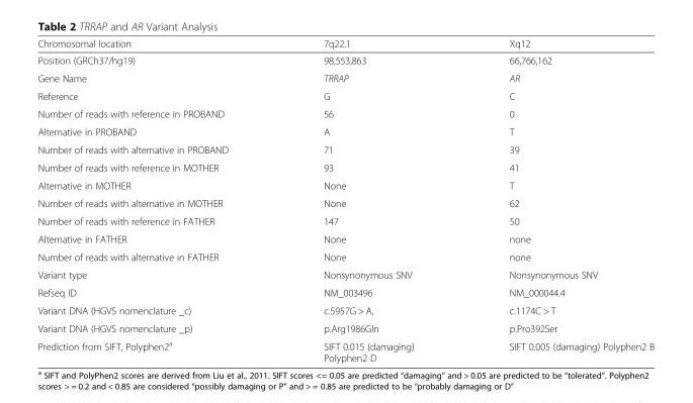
<table><thead><tr><td>Chromosomal location</td><td>7q22.1</td><td>Xq12</td></tr></thead><tbody><tr><td>Position (GRCh37/hg19)</td><td>98,553,863</td><td>66,766,162</td></tr><tr><td>Gene Name</td><td>TRRAP</td><td>AR</td></tr><tr><td>Reference</td><td>G</td><td>C</td></tr><tr><td>Number of reads with reference in PROBAND</td><td>56</td><td>0</td></tr><tr><td>Alternative in PROBAND</td><td>A</td><td>T</td></tr><tr><td>Number of reads with alternative in PROBAND</td><td>71</td><td>39</td></tr><tr><td>Number of reads with reference in MOTHER</td><td>93</td><td>41</td></tr><tr><td>Alternative in MOTHER</td><td>None</td><td>T</td></tr><tr><td>Number of reads with alternative in MOTHER</td><td>None</td><td>62</td></tr><tr><td>Number of reads with reference in FATHER</td><td>147</td><td>50</td></tr><tr><td>Alternative in FATHER</td><td>None</td><td>none</td></tr><tr><td>Number of reads with alternative in FATHER</td><td>None</td><td>none</td></tr><tr><td>Variant type</td><td>Nonsynonymous SNV</td><td>Nonsynonymous SNV</td></tr><tr><td>Refseq ID</td><td>NM_003496</td><td>NM_000044.4</td></tr><tr><td>Variant DNA (HGVS nomenclature _c)</td><td>c.5957G &gt; A,</td><td>c.1174C &gt; T</td></tr><tr><td>Variant DNA (HGVS nomenclature _p)</td><td>p.Arg1986Gln</td><td>p.Pro392Ser</td></tr><tr><td>Prediction from SIFT, Polyphen2<sup>a</sup></td><td>SIFT 0.015 (damaging) Polyphen2 D</td><td>SIFT 0.005 (damaging) Polyphen2 B</td></tr></tbody></table>